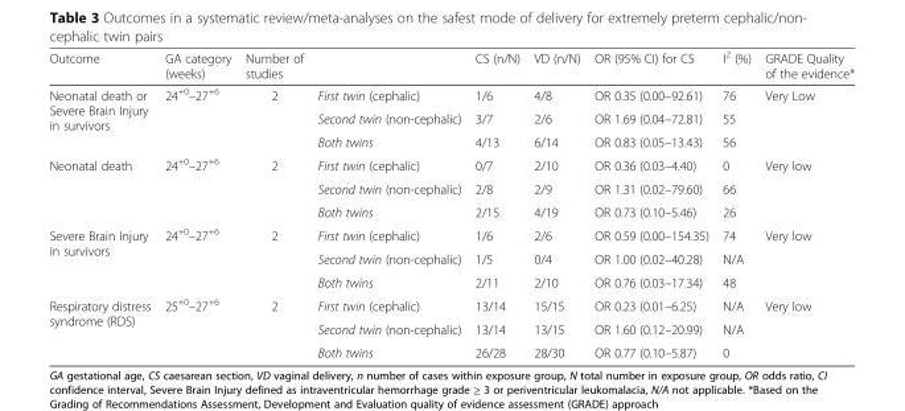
<table><thead><tr><td>Outcome</td><td>GA category (weeks)</td><td>Number of studies</td><td></td><td>CS (n/N)</td><td>VD (n/N)</td><td>OR (95% CI) for CS</td><td>I<sup>2</sup> (%)</td><td>GRADE Quality of the evidence*</td></tr></thead><tbody><tr><td rowspan="3">Neonatal death or Severe Brain Injury in survivors</td><td rowspan="3">24<sup>+0</sup>–27<sup>+6</sup></td><td rowspan="3">2</td><td>First twin (cephalic)</td><td>1/6</td><td>4/8</td><td>OR 0.35 (0.00–92.61)</td><td>76</td><td rowspan="3">Very Low</td></tr><tr><td>Second twin (non-cephalic)</td><td>3/7</td><td>2/6</td><td>OR 1.69 (0.04–72.81)</td><td>55</td></tr><tr><td>Both twins</td><td>4/13</td><td>6/14</td><td>OR 0.83 (0.05–13.43)</td><td>56</td></tr><tr><td rowspan="3">Neonatal death</td><td rowspan="3">24<sup>+0</sup>–27<sup>+6</sup></td><td rowspan="3">2</td><td>First twin (cephalic)</td><td>0/7</td><td>2/10</td><td>OR 0.36 (0.03–4.40)</td><td>0</td><td rowspan="3">Very low</td></tr><tr><td>Second twin (non-cephalic)</td><td>2/8</td><td>2/9</td><td>OR 1.31 (0.02–79.60)</td><td>66</td></tr><tr><td>Both twins</td><td>2/15</td><td>4/19</td><td>OR 0.73 (0.10–5.46)</td><td>26</td></tr><tr><td rowspan="3">Severe Brain Injury in survivors</td><td rowspan="3">24<sup>+0</sup>–27<sup>+6</sup></td><td rowspan="3">2</td><td>First twin (cephalic)</td><td>1/6</td><td>2/6</td><td>OR 0.59 (0.00–154.35)</td><td>74</td><td rowspan="2">Very low</td></tr><tr><td>Second twin (non-cephalic)</td><td>1/5</td><td>0/4</td><td>OR 1.00 (0.02–40.28)</td><td>N/A</td></tr><tr><td>Both twins</td><td>2/11</td><td>2/10</td><td>OR 0.76 (0.03–17.34)</td><td>48</td><td></td></tr><tr><td rowspan="3">Respiratory distress syndrome (RDS)</td><td rowspan="3">25<sup>+0</sup>–27<sup>+6</sup></td><td rowspan="3">2</td><td>First twin (cephalic)</td><td>13/14</td><td>15/15</td><td>OR 0.23 (0.01–6.25)</td><td>N/A</td><td rowspan="3">Very low</td></tr><tr><td>Second twin (non-cephalic)</td><td>13/14</td><td>13/15</td><td>OR 1.60 (0.12–20.99)</td><td>N/A</td></tr><tr><td>Both twins</td><td>26/28</td><td>28/30</td><td>OR 0.77 (0.10–5.87)</td><td>0</td></tr></tbody></table>